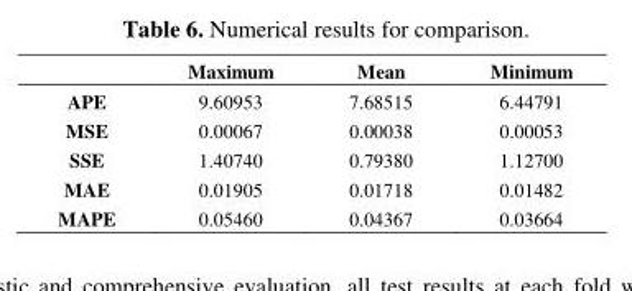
<table><thead><tr><td></td><td>Maximum</td><td>Mean</td><td>Minimum</td></tr></thead><tbody><tr><td>APE</td><td>9.60953</td><td>7.68515</td><td>6.44791</td></tr><tr><td>MSE</td><td>0.00067</td><td>0.00038</td><td>0.00053</td></tr><tr><td>SSE</td><td>1.40740</td><td>0.79380</td><td>1.12700</td></tr><tr><td>MAE</td><td>0.01905</td><td>0.01718</td><td>0.01482</td></tr><tr><td>MAPE</td><td>0.05460</td><td>0.04367</td><td>0.03664</td></tr></tbody></table>